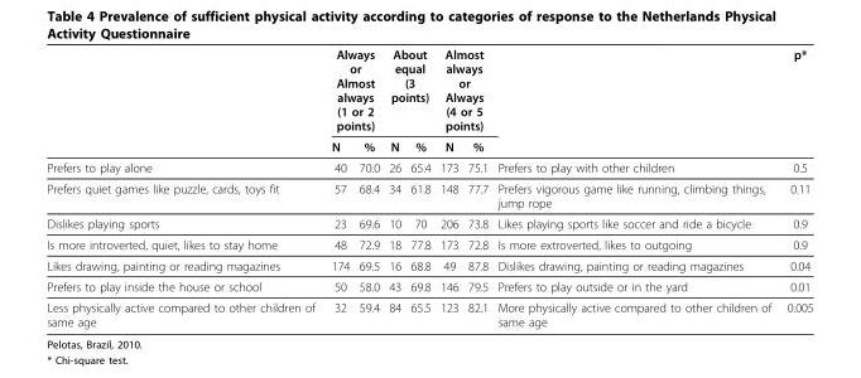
<table><thead><tr><td rowspan="2"></td><td colspan="2">Always or Almost always (1 or 2 points)</td><td colspan="2">About equal (3 points)</td><td colspan="2">Almost always or Always (4 or 5 points)</td><td rowspan="2"></td><td rowspan="2">p*</td></tr><tr><td>N</td><td>%</td><td>N</td><td>%</td><td>N</td><td>%</td></tr></thead><tbody><tr><td>Prefers to play alone</td><td>40</td><td>70.0</td><td>26</td><td>65.4</td><td>173</td><td>75.1</td><td>Prefers to play with other children</td><td>0.5</td></tr><tr><td>Prefers quiet games like puzzle, cards, toys fit</td><td>57</td><td>68.4</td><td>34</td><td>61.8</td><td>148</td><td>77.7</td><td>Prefers vigorous game like running, climbing things, jump rope</td><td>0.11</td></tr><tr><td>Dislikes playing sports</td><td>23</td><td>69.6</td><td>10</td><td>70</td><td>206</td><td>73.8</td><td>Likes playing sports like soccer and ride a bicycle</td><td>0.9</td></tr><tr><td>Is more introverted, quiet, likes to stay home</td><td>48</td><td>72.9</td><td>18</td><td>77.8</td><td>173</td><td>72.8</td><td>Is more extroverted, likes to outgoing</td><td>0.9</td></tr><tr><td>Likes drawing, painting or reading magazines</td><td>174</td><td>69.5</td><td>16</td><td>68.8</td><td>49</td><td>87.8</td><td>Dislikes drawing, painting or reading magazines</td><td>0.04</td></tr><tr><td>Prefers to play inside the house or school</td><td>50</td><td>58.0</td><td>43</td><td>69.8</td><td>146</td><td>79.5</td><td>Prefers to play outside or in the yard</td><td>0.01</td></tr><tr><td>Less physically active compared to other children of same age</td><td>32</td><td>59.4</td><td>84</td><td>65.5</td><td>123</td><td>82.1</td><td>More physically active compared to other children of same age</td><td>0.005</td></tr></tbody></table>